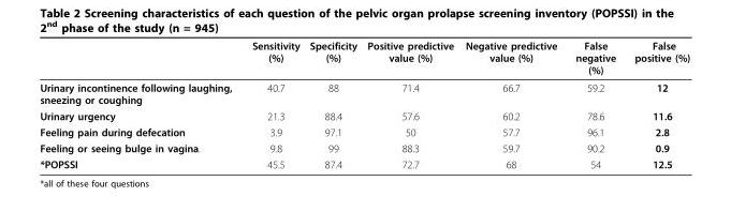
<table><thead><tr><td></td><td>Sensitivity (%)</td><td>Specificity (%)</td><td>Positive predictive value (%)</td><td>Negative predictive value (%)</td><td>False negative (%)</td><td>False positive (%)</td></tr></thead><tbody><tr><td>Urinary incontinence following laughing, sneezing or coughing</td><td>40.7</td><td>88</td><td>71.4</td><td>66.7</td><td>59.2</td><td>12</td></tr><tr><td>Urinary urgency</td><td>21.3</td><td>88.4</td><td>57.6</td><td>60.2</td><td>78.6</td><td>11.6</td></tr><tr><td>Feeling pain during defecation</td><td>3.9</td><td>97.1</td><td>50</td><td>57.7</td><td>96.1</td><td>2.8</td></tr><tr><td>Feeling or seeing bulge in vagina.</td><td>9.8</td><td>99</td><td>88.3</td><td>59.7</td><td>90.2</td><td>0.9</td></tr><tr><td>*POPSSI</td><td>45.5</td><td>87.4</td><td>72.7</td><td>68</td><td>54</td><td>12.5</td></tr></tbody></table>